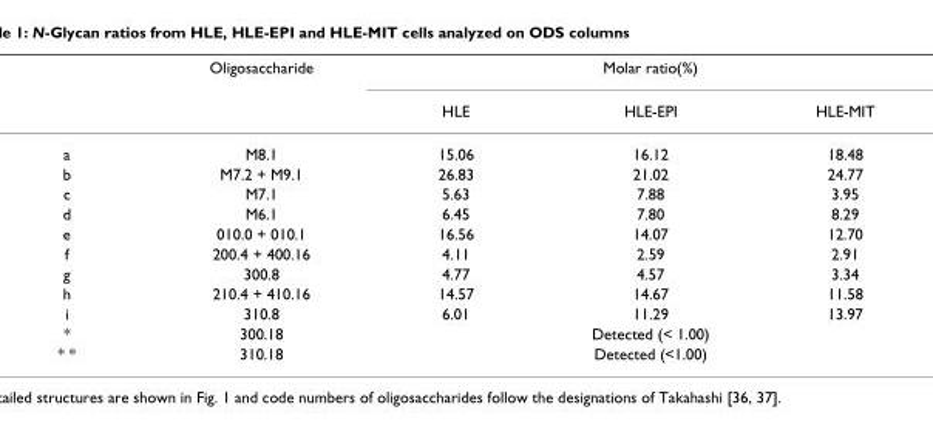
<table><thead><tr><td rowspan="2"></td><td rowspan="2">Oligosaccharide</td><td colspan="3">Molar ratio(%)</td></tr><tr><td>HLE</td><td>HLE-EPI</td><td>HLE-MIT</td></tr></thead><tbody><tr><td>a</td><td>M8.1</td><td>15.06</td><td>16.12</td><td>18.48</td></tr><tr><td>b</td><td>M7.2 + M9.1</td><td>26.83</td><td>21.02</td><td>24.77</td></tr><tr><td>c</td><td>M7.1</td><td>5.63</td><td>7.88</td><td>3.95</td></tr><tr><td>d</td><td>M6.1</td><td>6.45</td><td>7.80</td><td>8.29</td></tr><tr><td>e</td><td>010.0 + 010.1</td><td>16.56</td><td>14.07</td><td>12.70</td></tr><tr><td>f</td><td>200.4 + 400.16</td><td>4.11</td><td>2.59</td><td>2.91</td></tr><tr><td>g</td><td>300.8</td><td>4.77</td><td>4.57</td><td>3.34</td></tr><tr><td>h</td><td>210.4 + 410.16</td><td>14.57</td><td>14.67</td><td>11.58</td></tr><tr><td>i</td><td>310.8</td><td>6.01</td><td>11.29</td><td>13.97</td></tr><tr><td>*</td><td>300.18</td><td colspan="3">Detected (&lt; 1.00)</td></tr><tr><td>* *</td><td>310.18</td><td colspan="3">Detected (&lt;1.00)</td></tr></tbody></table>